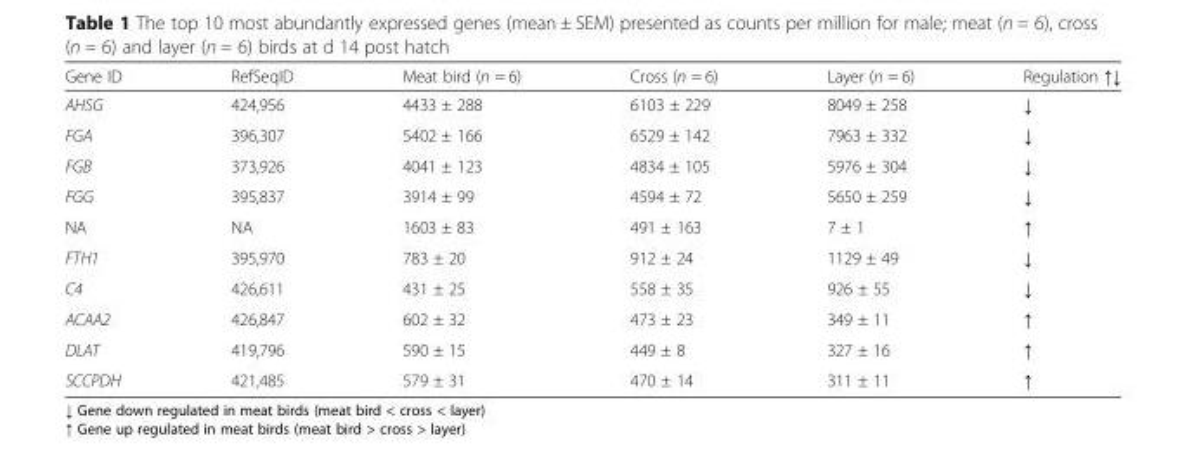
<table><thead><tr><td>Gene ID</td><td>RefSeqID</td><td>Meat bird (n = 6)</td><td>Cross (n = 6)</td><td>Layer (n = 6)</td><td>Regulation ↑↓</td></tr></thead><tbody><tr><td>AHSG</td><td>424,956</td><td>4433 ± 288</td><td>6103 ± 229</td><td>8049 ± 258</td><td>↓</td></tr><tr><td>FGA</td><td>396,307</td><td>5402 ± 166</td><td>6529 ± 142</td><td>7963 ± 332</td><td>↓</td></tr><tr><td>FGB</td><td>373,926</td><td>4041 ± 123</td><td>4834 ± 105</td><td>5976 ± 304</td><td>↓</td></tr><tr><td>FGG</td><td>395,837</td><td>3914 ± 99</td><td>4594 ± 72</td><td>5650 ± 259</td><td>↓</td></tr><tr><td>NA</td><td>NA</td><td>1603 ± 83</td><td>491 ± 163</td><td>7 ± 1</td><td>↑</td></tr><tr><td>FTH1</td><td>395,970</td><td>783 ± 20</td><td>912 ± 24</td><td>1129 ± 49</td><td>↓</td></tr><tr><td>C4</td><td>426,611</td><td>431 ± 25</td><td>558 ± 35</td><td>926 ± 55</td><td>↓</td></tr><tr><td>ACAA2</td><td>426,847</td><td>602 ± 32</td><td>473 ± 23</td><td>349 ± 11</td><td>↑</td></tr><tr><td>DLAT</td><td>419,796</td><td>590 ± 15</td><td>449 ± 8</td><td>327 ± 16</td><td>↑</td></tr><tr><td>SCCPDH</td><td>421,485</td><td>579 ± 31</td><td>470 ± 14</td><td>311 ± 11</td><td>↑</td></tr></tbody></table>